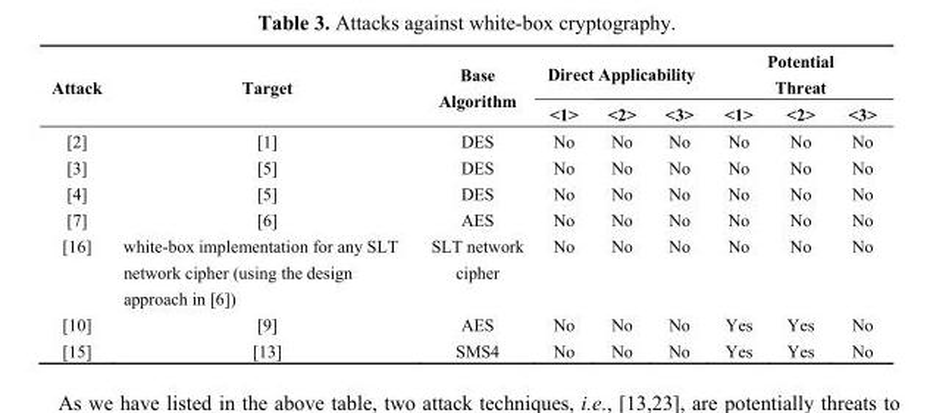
<table><thead><tr><td rowspan="2">Attack</td><td rowspan="2">Target</td><td rowspan="2">Base Algorithm</td><td colspan="3">Direct Applicability</td><td colspan="3">Potential Threat</td></tr><tr><td>&lt;1&gt;</td><td>&lt;2&gt;</td><td>&lt;3&gt;</td><td>&lt;1&gt;</td><td>&lt;2&gt;</td><td>&lt;3&gt;</td></tr></thead><tbody><tr><td>[2]</td><td>[1]</td><td>DES</td><td>No</td><td>No</td><td>No</td><td>No</td><td>No</td><td>No</td></tr><tr><td>[3]</td><td>[5]</td><td>DES</td><td>No</td><td>No</td><td>No</td><td>No</td><td>No</td><td>No</td></tr><tr><td>[4]</td><td>[5]</td><td>DES</td><td>No</td><td>No</td><td>No</td><td>No</td><td>No</td><td>No</td></tr><tr><td>[7]</td><td>[6]</td><td>AES</td><td>No</td><td>No</td><td>No</td><td>No</td><td>No</td><td>No</td></tr><tr><td>[16]</td><td>white-box implementation for any SLT network cipher (using the design approach in [6])</td><td>SLT network cipher</td><td>No</td><td>No</td><td>No</td><td>No</td><td>No</td><td>No</td></tr><tr><td>[10]</td><td>[9]</td><td>AES</td><td>No</td><td>No</td><td>No</td><td>Yes</td><td>Yes</td><td>No</td></tr><tr><td>[15]</td><td>[13]</td><td>SMS4</td><td>No</td><td>No</td><td>No</td><td>Yes</td><td>Yes</td><td>No</td></tr></tbody></table>